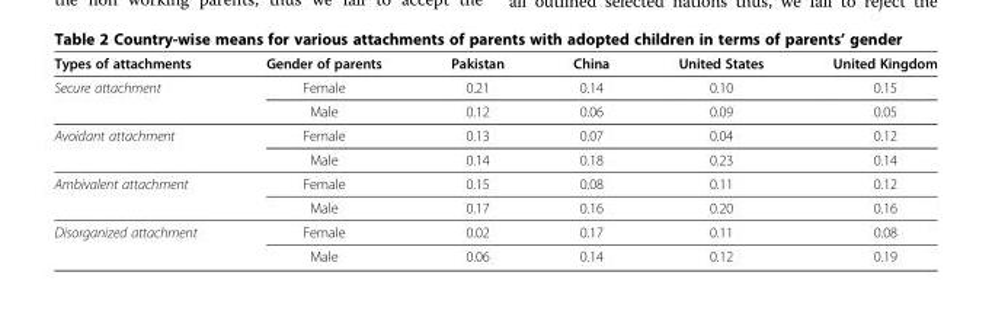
<table><thead><tr><td>Types of attachments</td><td>Gender of parents</td><td>Pakistan</td><td>China</td><td>United States</td><td>United Kingdom</td></tr></thead><tbody><tr><td rowspan="2">Secure attachment</td><td>Female</td><td>0.21</td><td>0.14</td><td>0.10</td><td>0.15</td></tr><tr><td>Male</td><td>0.12</td><td>0.06</td><td>0.09</td><td>0.05</td></tr><tr><td rowspan="2">Avoidant attachment</td><td>Female</td><td>0.13</td><td>0.07</td><td>0.04</td><td>0.12</td></tr><tr><td>Male</td><td>0.14</td><td>0.18</td><td>0.23</td><td>0.14</td></tr><tr><td rowspan="2">Ambivalent attachment</td><td>Female</td><td>0.15</td><td>0.08</td><td>0.11</td><td>0.12</td></tr><tr><td>Male</td><td>0.17</td><td>0.16</td><td>0.20</td><td>0.16</td></tr><tr><td rowspan="2">Disorganized attachment</td><td>Female</td><td>0.02</td><td>0.17</td><td>0.11</td><td>0.08</td></tr><tr><td>Male</td><td>0.06</td><td>0.14</td><td>0.12</td><td>0.19</td></tr></tbody></table>